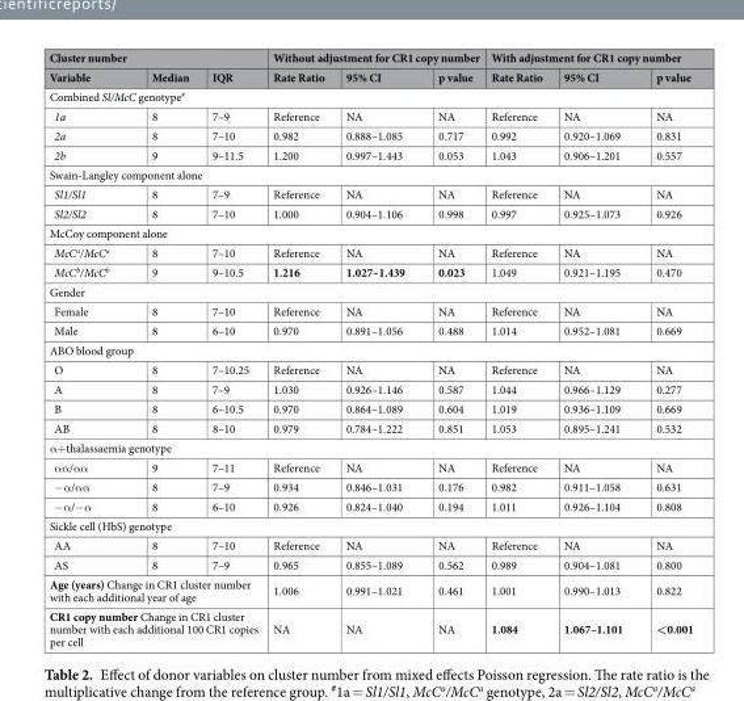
<table><thead><tr><td colspan="3">Cluster number</td><td colspan="3">Without adjustment for CR1 copy number</td><td colspan="3">With adjustment for CR1 copy number</td></tr><tr><td>Variable</td><td>Median</td><td>IQR</td><td>Rate Ratio</td><td>95% CI</td><td>p value</td><td>Rate Ratio</td><td>95% CI</td><td>p value</td></tr></thead><tbody><tr><td colspan="9">Combined Sl/McC genotype<sup>#</sup></td></tr><tr><td>1a</td><td>8</td><td>7–9</td><td>Reference</td><td>NA</td><td>NA</td><td>Reference</td><td>NA</td><td>NA</td></tr><tr><td>2a</td><td>8</td><td>7–10</td><td>0.982</td><td>0.888–1.085</td><td>0.717</td><td>0.992</td><td>0.920–1.069</td><td>0.831</td></tr><tr><td>2b</td><td>9</td><td>9–11.5</td><td>1.200</td><td>0.997–1.443</td><td>0.053</td><td>1.043</td><td>0.906–1.201</td><td>0.557</td></tr><tr><td colspan="9">Swain-Langley component alone</td></tr><tr><td>Sl1/Sl1</td><td>8</td><td>7–9</td><td>Reference</td><td>NA</td><td>NA</td><td>Reference</td><td>NA</td><td>NA</td></tr><tr><td>Sl2/Sl2</td><td>8</td><td>7–10</td><td>1.000</td><td>0.904–1.106</td><td>0.998</td><td>0.997</td><td>0.925–1.073</td><td>0.926</td></tr><tr><td colspan="9">McCoy component alone</td></tr><tr><td>McC<sup>a</sup>/McC<sup>a</sup></td><td>8</td><td>7–10</td><td>Reference</td><td>NA</td><td>NA</td><td>Reference</td><td>NA</td><td>NA</td></tr><tr><td>McC<sup>b</sup>/McC<sup>b</sup></td><td>9</td><td>9–10.5</td><td>1.216</td><td>1.027–1.439</td><td>0.023</td><td>1.049</td><td>0.921–1.195</td><td>0.470</td></tr><tr><td colspan="9">Gender</td></tr><tr><td>Female</td><td>8</td><td>7–10</td><td>Reference</td><td>NA</td><td>NA</td><td>Reference</td><td>NA</td><td>NA</td></tr><tr><td>Male</td><td>8</td><td>6–10</td><td>0.970</td><td>0.891–1.056</td><td>0.488</td><td>1.014</td><td>0.952–1.081</td><td>0.669</td></tr><tr><td colspan="9">ABO blood group</td></tr><tr><td>O</td><td>8</td><td>7–10.25</td><td>Reference</td><td>NA</td><td>NA</td><td>Reference</td><td>NA</td><td>NA</td></tr><tr><td>A</td><td>8</td><td>7–9</td><td>1.030</td><td>0.926–1.146</td><td>0.587</td><td>1.044</td><td>0.966–1.129</td><td>0.277</td></tr><tr><td>B</td><td>8</td><td>6–10.5</td><td>0.970</td><td>0.864–1.089</td><td>0.604</td><td>1.019</td><td>0.936–1.109</td><td>0.669</td></tr><tr><td>AB</td><td>8</td><td>8–10</td><td>0.979</td><td>0.784–1.222</td><td>0.851</td><td>1.053</td><td>0.895–1.241</td><td>0.532</td></tr><tr><td colspan="9">α+thalassaemia genotype</td></tr><tr><td>αα/αα</td><td>9</td><td>7–11</td><td>Reference</td><td>NA</td><td>NA</td><td>Reference</td><td>NA</td><td>NA</td></tr><tr><td>−α/αα</td><td>8</td><td>7–9</td><td>0.934</td><td>0.846–1.031</td><td>0.176</td><td>0.982</td><td>0.911–1.058</td><td>0.631</td></tr><tr><td>−α/−α</td><td>8</td><td>6–10</td><td>0.926</td><td>0.824–1.040</td><td>0.194</td><td>1.011</td><td>0.926–1.104</td><td>0.808</td></tr><tr><td colspan="9">Sickle cell (HbS) genotype</td></tr><tr><td>AA</td><td>8</td><td>7–10</td><td>Reference</td><td>NA</td><td>NA</td><td>Reference</td><td>NA</td><td>NA</td></tr><tr><td>AS</td><td>8</td><td>7–9</td><td>0.965</td><td>0.855–1.089</td><td>0.562</td><td>0.989</td><td>0.904–1.081</td><td>0.800</td></tr><tr><td colspan="3">Age (years) Change in CR1 cluster number with each additional year of age</td><td>1.006</td><td>0.991–1.021</td><td>0.461</td><td>1.001</td><td>0.990–1.013</td><td>0.822</td></tr><tr><td colspan="3">CR1 copy number Change in CR1 cluster number with each additional 100 CR1 copies per cell</td><td>NA</td><td>NA</td><td>NA</td><td>1.084</td><td>1.067–1.101</td><td>&lt;0.001</td></tr></tbody></table>